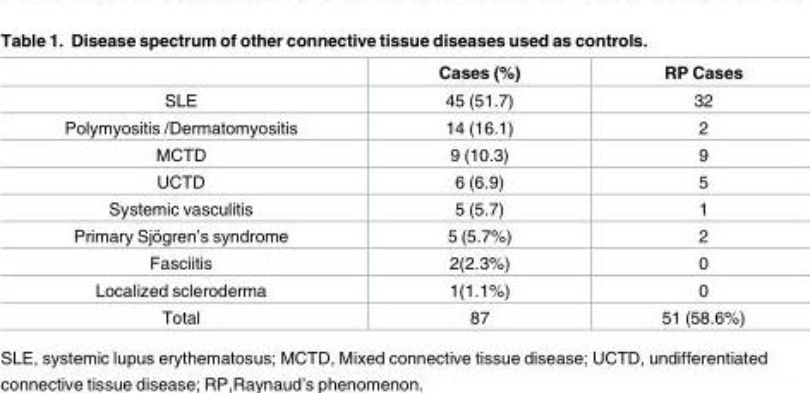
<table><thead><tr><td></td><td>Cases (%)</td><td>RP Cases</td></tr></thead><tbody><tr><td>SLE</td><td>45 (51.7)</td><td>32</td></tr><tr><td>Polymyositis /Dermatomyositis</td><td>14 (16.1)</td><td>2</td></tr><tr><td>MCTD</td><td>9 (10.3)</td><td>9</td></tr><tr><td>UCTD</td><td>6 (6.9)</td><td>5</td></tr><tr><td>Systemic vasculitis</td><td>5 (5.7)</td><td>1</td></tr><tr><td>Primary Sjo¨gren’s syndrome</td><td>5 (5.7%)</td><td>2</td></tr><tr><td>Fasciitis</td><td>2(2.3%)</td><td>0</td></tr><tr><td>Localized scleroderma</td><td>1(1.1%)</td><td>0</td></tr><tr><td>Total</td><td>87</td><td>51 (58.6%)</td></tr></tbody></table>